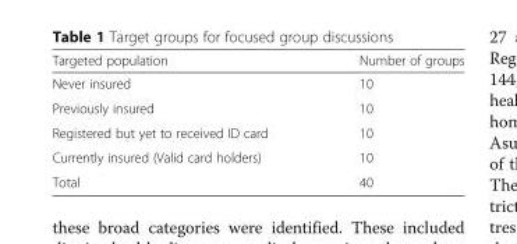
<table><thead><tr><td>Targeted population</td><td>Number of groups</td></tr></thead><tbody><tr><td>Never insured</td><td>10</td></tr><tr><td>Previously insured</td><td>10</td></tr><tr><td>Registered but yet to received ID card</td><td>10</td></tr><tr><td>Currently insured (Valid card holders)</td><td>10</td></tr><tr><td>Total</td><td>40</td></tr></tbody></table>